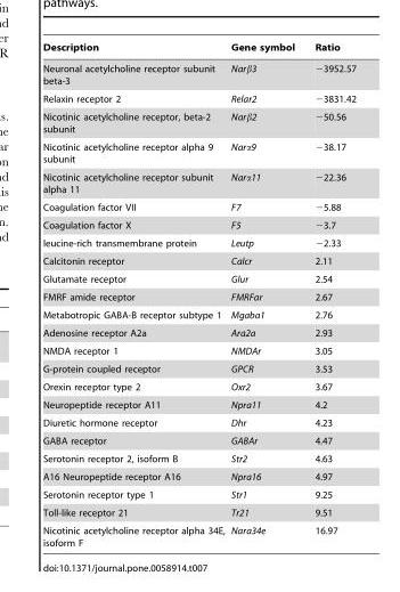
<table><thead><tr><td>Description</td><td>Gene symbol</td><td>Ratio</td></tr></thead><tbody><tr><td>Neuronal acetylcholine receptor subunit beta-3</td><td>Narβ3</td><td>−3952.57</td></tr><tr><td>Relaxin receptor 2</td><td>Relar2</td><td>−3831.42</td></tr><tr><td>Nicotinic acetylcholine receptor, beta-2 subunit</td><td>Narβ2</td><td>−50.56</td></tr><tr><td>Nicotinic acetylcholine receptor alpha 9 subunit</td><td>Narα9</td><td>−38.17</td></tr><tr><td>Nicotinic acetylcholine receptor subunit alpha 11</td><td>Narα11</td><td>−22.36</td></tr><tr><td>Coagulation factor VII</td><td>F7</td><td>−5.88</td></tr><tr><td>Coagulation factor X</td><td>F5</td><td>−3.7</td></tr><tr><td>leucine-rich transmembrane protein</td><td>Leutp</td><td>−2.33</td></tr><tr><td>Calcitonin receptor</td><td>Calcr</td><td>2.11</td></tr><tr><td>Glutamate receptor</td><td>Glur</td><td>2.54</td></tr><tr><td>FMRF amide receptor</td><td>FMRFar</td><td>2.67</td></tr><tr><td>Metabotropic GABA-B receptor subtype 1</td><td>Mgaba1</td><td>2.76</td></tr><tr><td>Adenosine receptor A2a</td><td>Ara2a</td><td>2.93</td></tr><tr><td>NMDA receptor 1</td><td>NMDAr</td><td>3.05</td></tr><tr><td>G-protein coupled receptor</td><td>GPCR</td><td>3.53</td></tr><tr><td>Orexin receptor type 2</td><td>Oxr2</td><td>3.67</td></tr><tr><td>Neuropeptide receptor A11</td><td>Npra11</td><td>4.2</td></tr><tr><td>Diuretic hormone receptor</td><td>Dhr</td><td>4.23</td></tr><tr><td>GABA receptor</td><td>GABAr</td><td>4.47</td></tr><tr><td>Serotonin receptor 2, isoform B</td><td>Str2</td><td>4.63</td></tr><tr><td>A16 Neuropeptide receptor A16</td><td>Npra16</td><td>4.97</td></tr><tr><td>Serotonin receptor type 1</td><td>Str1</td><td>9.25</td></tr><tr><td>Toll-like receptor 21</td><td>Tr21</td><td>9.51</td></tr><tr><td>Nicotinic acetylcholine receptor alpha 34E, isoform F</td><td>Nara34e</td><td>16.97</td></tr></tbody></table>